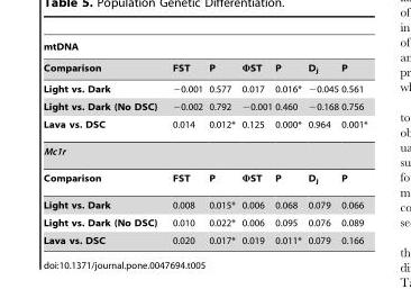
<table><thead><tr><td colspan="7">mtDNA</td></tr><tr><td>Comparison</td><td>FST</td><td>P</td><td>ΦST</td><td>P</td><td>D<sub>j</sub></td><td>P</td></tr></thead><tbody><tr><td>Light vs. Dark</td><td>−0.001</td><td>0.577</td><td>0.017</td><td>0.016*</td><td>−0.045</td><td>0.561</td></tr><tr><td>Light vs. Dark (No DSC)</td><td>−0.002</td><td>0.792</td><td>−0.001</td><td>0.460</td><td>−0.168</td><td>0.756</td></tr><tr><td>Lava vs. DSC</td><td>0.014</td><td>0.012*</td><td>0.125</td><td>0.000*</td><td>0.964</td><td>0.001*</td></tr><tr><td colspan="7">Mc1r</td></tr><tr><td>Comparison</td><td>FST</td><td>P</td><td>ΦST</td><td>P</td><td>D<sub>j</sub></td><td>P</td></tr><tr><td>Light vs. Dark</td><td>0.008</td><td>0.015*</td><td>0.006</td><td>0.068</td><td>0.079</td><td>0.066</td></tr><tr><td>Light vs. Dark (No DSC)</td><td>0.010</td><td>0.022*</td><td>0.006</td><td>0.095</td><td>0.076</td><td>0.089</td></tr><tr><td>Lava vs. DSC</td><td>0.020</td><td>0.017*</td><td>0.019</td><td>0.011*</td><td>0.079</td><td>0.166</td></tr></tbody></table>